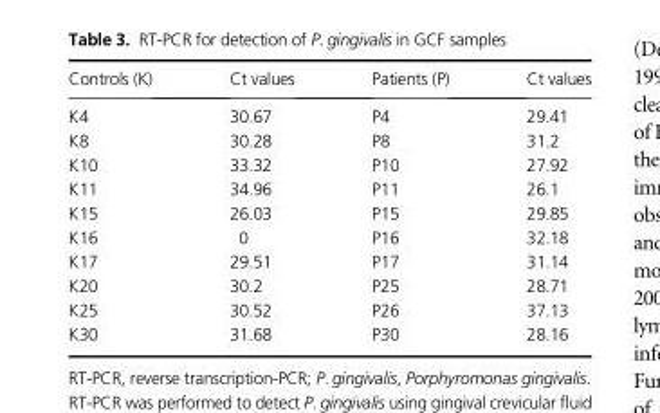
<table><thead><tr><td>Controls (K)</td><td>Ct values</td><td>Patients (P)</td><td>Ct values</td></tr></thead><tbody><tr><td>K4</td><td>30.67</td><td>P4</td><td>29.41</td></tr><tr><td>K8</td><td>30.28</td><td>P8</td><td>31.2</td></tr><tr><td>K10</td><td>33.32</td><td>P10</td><td>27.92</td></tr><tr><td>K11</td><td>34.96</td><td>P11</td><td>26.1</td></tr><tr><td>K15</td><td>26.03</td><td>P15</td><td>29.85</td></tr><tr><td>K16</td><td>0</td><td>P16</td><td>32.18</td></tr><tr><td>K17</td><td>29.51</td><td>P17</td><td>31.14</td></tr><tr><td>K20</td><td>30.2</td><td>P25</td><td>28.71</td></tr><tr><td>K25</td><td>30.52</td><td>P26</td><td>37.13</td></tr><tr><td>K30</td><td>31.68</td><td>P30</td><td>28.16</td></tr></tbody></table>